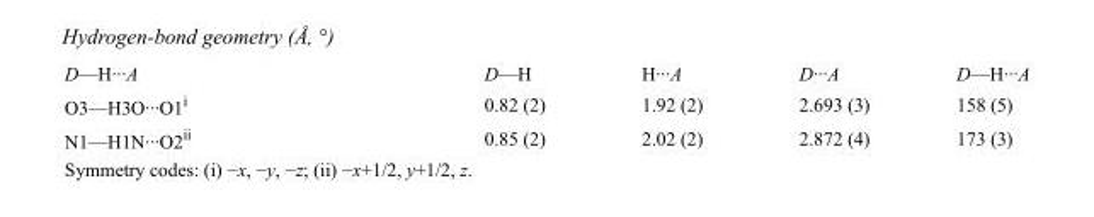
<table><tbody><tr><td>D—H···A</td><td>D—H</td><td>H···A</td><td>D···A</td><td>D—H···A</td></tr><tr><td>O3—H3O···O1<sup>i</sup></td><td>0.82 (2)</td><td>1.92 (2)</td><td>2.693 (3)</td><td>158 (5)</td></tr><tr><td>N1—H1N···O2<sup>ii</sup></td><td>0.85 (2)</td><td>2.02 (2)</td><td>2.872 (4)</td><td>173 (3)</td></tr></tbody></table>